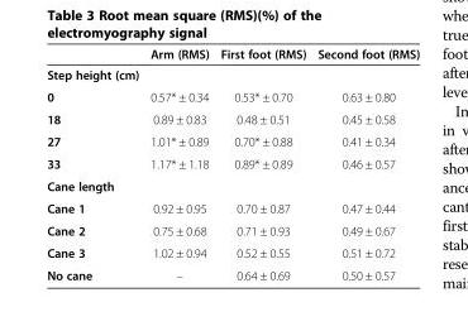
<table><thead><tr><td></td><td>Arm (RMS)</td><td>First foot (RMS)</td><td>Second foot (RMS)</td></tr></thead><tbody><tr><td colspan="4">Step height (cm)</td></tr><tr><td>0</td><td>0.57* ± 0.34</td><td>0.53* ± 0.70</td><td>0.63 ± 0.80</td></tr><tr><td>18</td><td>0.89 ± 0.83</td><td>0.48 ± 0.51</td><td>0.45 ± 0.58</td></tr><tr><td>27</td><td>1.01* ± 0.89</td><td>0.70* ± 0.88</td><td>0.41 ± 0.34</td></tr><tr><td>33</td><td>1.17* ± 1.18</td><td>0.89* ± 0.89</td><td>0.46 ± 0.57</td></tr><tr><td colspan="4">Cane length</td></tr><tr><td>Cane 1</td><td>0.92 ± 0.95</td><td>0.70 ± 0.87</td><td>0.47 ± 0.44</td></tr><tr><td>Cane 2</td><td>0.75 ± 0.68</td><td>0.71 ± 0.93</td><td>0.49 ± 0.67</td></tr><tr><td>Cane 3</td><td>1.02 ± 0.94</td><td>0.52 ± 0.55</td><td>0.51 ± 0.72</td></tr><tr><td>No cane</td><td>–</td><td>0.64 ± 0.69</td><td>0.50 ± 0.57</td></tr></tbody></table>